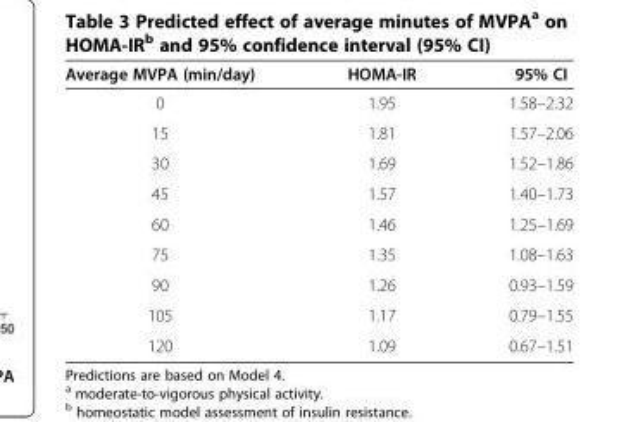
<table><thead><tr><td>Average MVPA (min/day)</td><td>HOMA-IR</td><td>95% CI</td></tr></thead><tbody><tr><td>0</td><td>1.95</td><td>1.58–2.32</td></tr><tr><td>15</td><td>1.81</td><td>1.57–2.06</td></tr><tr><td>30</td><td>1.69</td><td>1.52–1.86</td></tr><tr><td>45</td><td>1.57</td><td>1.40–1.73</td></tr><tr><td>60</td><td>1.46</td><td>1.25–1.69</td></tr><tr><td>75</td><td>1.35</td><td>1.08–1.63</td></tr><tr><td>90</td><td>1.26</td><td>0.93–1.59</td></tr><tr><td>105</td><td>1.17</td><td>0.79–1.55</td></tr><tr><td>120</td><td>1.09</td><td>0.67–1.51</td></tr></tbody></table>